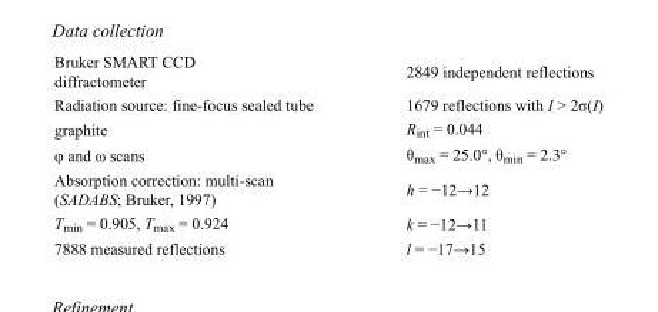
<table><tbody><tr><td>Bruker SMART CCD diffractometer</td><td>2849 independent reflections</td></tr><tr><td>Radiation source: fine-focus sealed tube</td><td>1679 reflections with I &gt; 2σ(I)</td></tr><tr><td>graphite</td><td>R<sub>int</sub> = 0.044</td></tr><tr><td>φ and ω scans</td><td>θ<sub>max</sub> = 25.0°, θ<sub>min</sub> = 2.3°</td></tr><tr><td>Absorption correction: multi-scan (SADABS; Bruker, 1997)</td><td>h = −12→12</td></tr><tr><td>T<sub>min</sub> = 0.905, T<sub>max</sub> = 0.924</td><td>k = −12→11</td></tr><tr><td>7888 measured reflections</td><td>l = −17→15</td></tr></tbody></table>